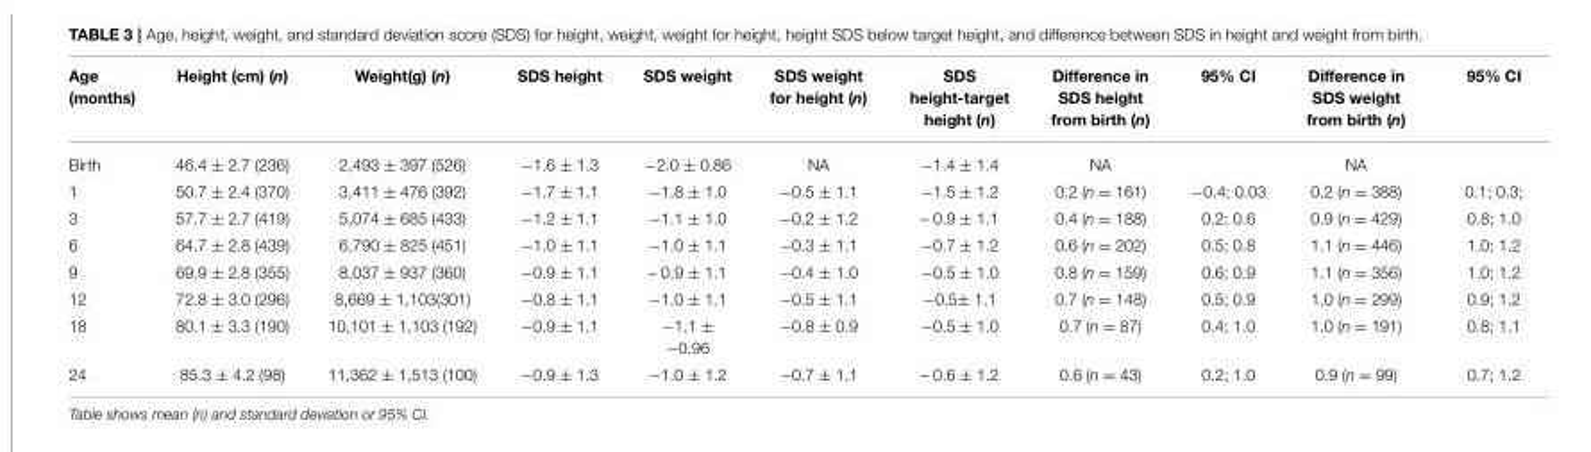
<table><thead><tr><td>Age (months)</td><td>Height (cm) (n)</td><td>Weight(g) (n)</td><td>SDS height</td><td>SDS weight</td><td>SDS weight for height (n)</td><td>SDS height-target height (n)</td><td>Difference in SDS height from birth (n)</td><td>95% CI</td><td>Difference in SDS weight from birth (n)</td><td>95% CI</td></tr></thead><tbody><tr><td>Birth</td><td>46.4 ± 2.7 (236)</td><td>2,493 ± 397 (526)</td><td>−1.6 ± 1.3</td><td>−2.0 ± 0.86</td><td>NA</td><td>−1.4 ± 1.4</td><td>NA</td><td></td><td>NA</td><td></td></tr><tr><td>1</td><td>50.7 ± 2.4 (370)</td><td>3,411 ± 476 (392)</td><td>−1.7 ± 1.1</td><td>−1.8 ± 1.0</td><td>−0.5 ± 1.1</td><td>−1.5 ± 1.2</td><td>0.2 (n = 161)</td><td>−0.4; 0.03</td><td>0.2 (n = 388)</td><td>0.1; 0.3;</td></tr><tr><td>3</td><td>57.7 ± 2.7 (419)</td><td>5,074 ± 685 (433)</td><td>−1.2 ± 1.1</td><td>−1.1 ± 1.0</td><td>−0.2 ± 1.2</td><td>– 0.9 ± 1.1</td><td>0.4 (n = 188)</td><td>0.2; 0.6</td><td>0.9 (n = 429)</td><td>0.8; 1.0</td></tr><tr><td>6</td><td>64.7 ± 2.8 (439)</td><td>6,790 ± 825 (451)</td><td>−1.0 ± 1.1</td><td>−1.0 ± 1.1</td><td>−0.3 ± 1.1</td><td>−0.7 ± 1.2</td><td>0.6 (n = 202)</td><td>0.5; 0.8</td><td>1.1 (n = 446)</td><td>1.0; 1.2</td></tr><tr><td>9</td><td>69.9 ± 2.8 (355)</td><td>8,037 ± 937 (360)</td><td>−0.9 ± 1.1</td><td>– 0.9 ± 1.1</td><td>−0.4 ± 1.0</td><td>−0.5 ± 1.0</td><td>0.8 (n = 159)</td><td>0.6; 0.9</td><td>1.1 (n = 356)</td><td>1.0; 1.2</td></tr><tr><td>12</td><td>72.8 ± 3.0 (296)</td><td>8,669 ± 1,103(301)</td><td>−0.8 ± 1.1</td><td>−1.0 ± 1.1</td><td>−0.5 ± 1.1</td><td>−0.5± 1.1</td><td>0.7 (n = 148)</td><td>0.5; 0.9</td><td>1.0 (n = 299)</td><td>0.9; 1.2</td></tr><tr><td>18</td><td>80.1 ± 3.3 (190)</td><td>10,101 ± 1,103 (192)</td><td>−0.9 ± 1.1</td><td>−1.1 ± −0.96</td><td>−0.8 ± 0.9</td><td>−0.5 ± 1.0</td><td>0.7 (n = 87)</td><td>0.4; 1.0</td><td>1.0 (n = 191)</td><td>0.8; 1.1</td></tr><tr><td>24</td><td>85.3 ± 4.2 (98)</td><td>11,362 ± 1,513 (100)</td><td>−0.9 ± 1.3</td><td>−1.0 ± 1.2</td><td>−0.7 ± 1.1</td><td>– 0.6 ± 1.2</td><td>0.6 (n = 43)</td><td>0.2; 1.0</td><td>0.9 (n = 99)</td><td>0.7; 1.2</td></tr></tbody></table>